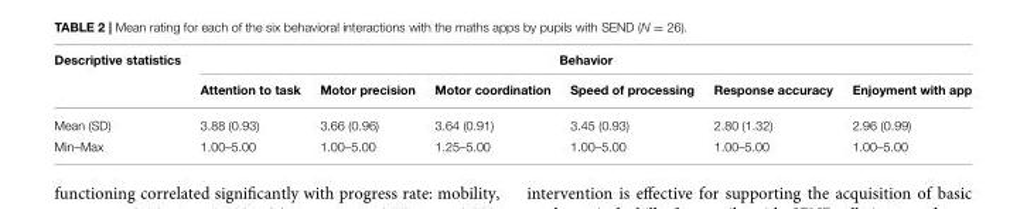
<table><thead><tr><td rowspan="2">Descriptive statistics</td><td colspan="6">Behavior</td></tr><tr><td>Attention to task</td><td>Motor precision</td><td>Motor coordination</td><td>Speed of processing</td><td>Response accuracy</td><td>Enjoyment with app</td></tr></thead><tbody><tr><td>Mean (SD)</td><td>3.88 (0.93)</td><td>3.66 (0.96)</td><td>3.64 (0.91)</td><td>3.45 (0.93)</td><td>2.80 (1.32)</td><td>2.96 (0.99)</td></tr><tr><td>Min–Max</td><td>1.00–5.00</td><td>1.00–5.00</td><td>1.25–5.00</td><td>1.00–5.00</td><td>1.00–5.00</td><td>1.00–5.00</td></tr></tbody></table>